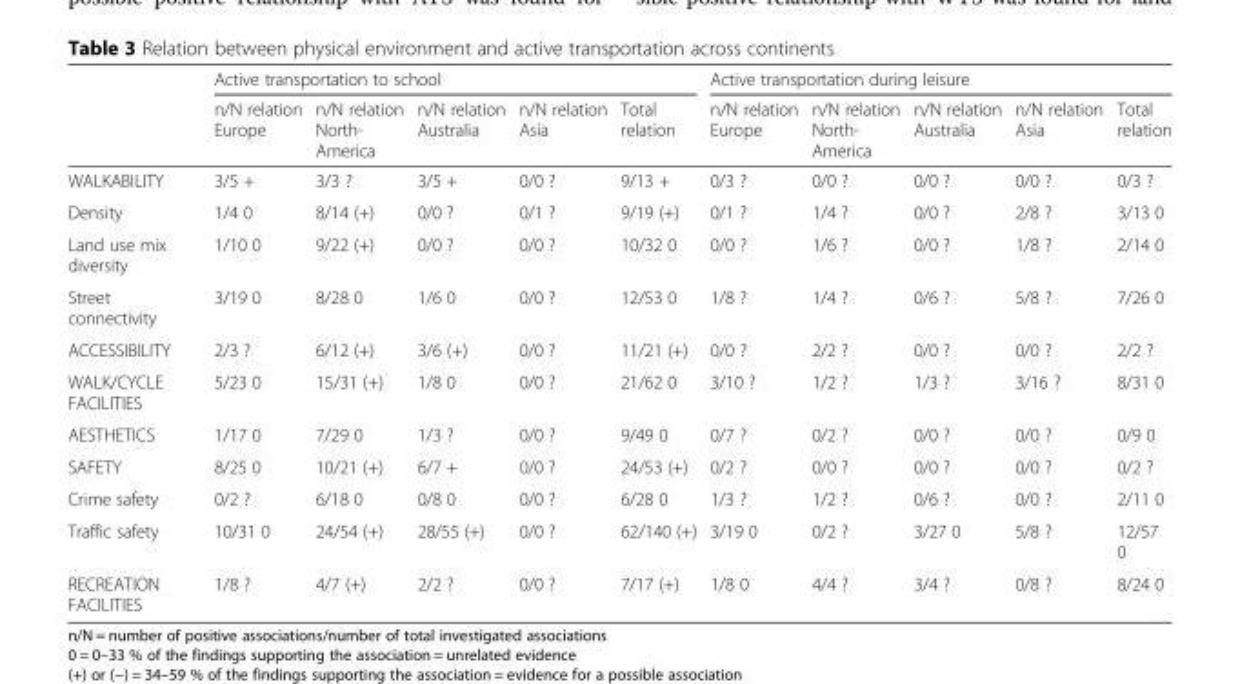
<table><thead><tr><td rowspan="2"></td><td colspan="5">Active transportation to school</td><td colspan="5">Active transportation during leisure</td></tr><tr><td>n/N relation Europe</td><td>n/N relation North- America</td><td>n/N relation Australia</td><td>n/N relation Asia</td><td>Total relation</td><td>n/N relation Europe</td><td>n/N relation North- America</td><td>n/N relation Australia</td><td>n/N relation Asia</td><td>Total relation</td></tr></thead><tbody><tr><td>WALKABILITY</td><td>3/5 +</td><td>3/3 ?</td><td>3/5 +</td><td>0/0 ?</td><td>9/13 +</td><td>0/3 ?</td><td>0/0 ?</td><td>0/0 ?</td><td>0/0 ?</td><td>0/3 ?</td></tr><tr><td>Density</td><td>1/4 0</td><td>8/14 (+)</td><td>0/0 ?</td><td>0/1 ?</td><td>9/19 (+)</td><td>0/1 ?</td><td>1/4 ?</td><td>0/0 ?</td><td>2/8 ?</td><td>3/13 0</td></tr><tr><td>Land use mix diversity</td><td>1/10 0</td><td>9/22 (+)</td><td>0/0 ?</td><td>0/0 ?</td><td>10/32 0</td><td>0/0 ?</td><td>1/6 ?</td><td>0/0 ?</td><td>1/8 ?</td><td>2/14 0</td></tr><tr><td>Street connectivity</td><td>3/19 0</td><td>8/28 0</td><td>1/6 0</td><td>0/0 ?</td><td>12/53 0</td><td>1/8 ?</td><td>1/4 ?</td><td>0/6 ?</td><td>5/8 ?</td><td>7/26 0</td></tr><tr><td>ACCESSIBILITY</td><td>2/3 ?</td><td>6/12 (+)</td><td>3/6 (+)</td><td>0/0 ?</td><td>11/21 (+)</td><td>0/0 ?</td><td>2/2 ?</td><td>0/0 ?</td><td>0/0 ?</td><td>2/2 ?</td></tr><tr><td>WALK/CYCLE FACILITIES</td><td>5/23 0</td><td>15/31 (+)</td><td>1/8 0</td><td>0/0 ?</td><td>21/62 0</td><td>3/10 ?</td><td>1/2 ?</td><td>1/3 ?</td><td>3/16 ?</td><td>8/31 0</td></tr><tr><td>AESTHETICS</td><td>1/17 0</td><td>7/29 0</td><td>1/3 ?</td><td>0/0 ?</td><td>9/49 0</td><td>0/7 ?</td><td>0/2 ?</td><td>0/0 ?</td><td>0/0 ?</td><td>0/9 0</td></tr><tr><td>SAFETY</td><td>8/25 0</td><td>10/21 (+)</td><td>6/7 +</td><td>0/0 ?</td><td>24/53 (+)</td><td>0/2 ?</td><td>0/0 ?</td><td>0/0 ?</td><td>0/0 ?</td><td>0/2 ?</td></tr><tr><td>Crime safety</td><td>0/2 ?</td><td>6/18 0</td><td>0/8 0</td><td>0/0 ?</td><td>6/28 0</td><td>1/3 ?</td><td>1/2 ?</td><td>0/6 ?</td><td>0/0 ?</td><td>2/11 0</td></tr><tr><td>Traffic safety</td><td>10/31 0</td><td>24/54 (+)</td><td>28/55 (+)</td><td>0/0 ?</td><td>62/140 (+)</td><td>3/19 0</td><td>0/2 ?</td><td>3/27 0</td><td>5/8 ?</td><td>12/57 0</td></tr><tr><td>RECREATION FACILITIES</td><td>1/8 ?</td><td>4/7 (+)</td><td>2/2 ?</td><td>0/0 ?</td><td>7/17 (+)</td><td>1/8 0</td><td>4/4 ?</td><td>3/4 ?</td><td>0/8 ?</td><td>8/24 0</td></tr></tbody></table>